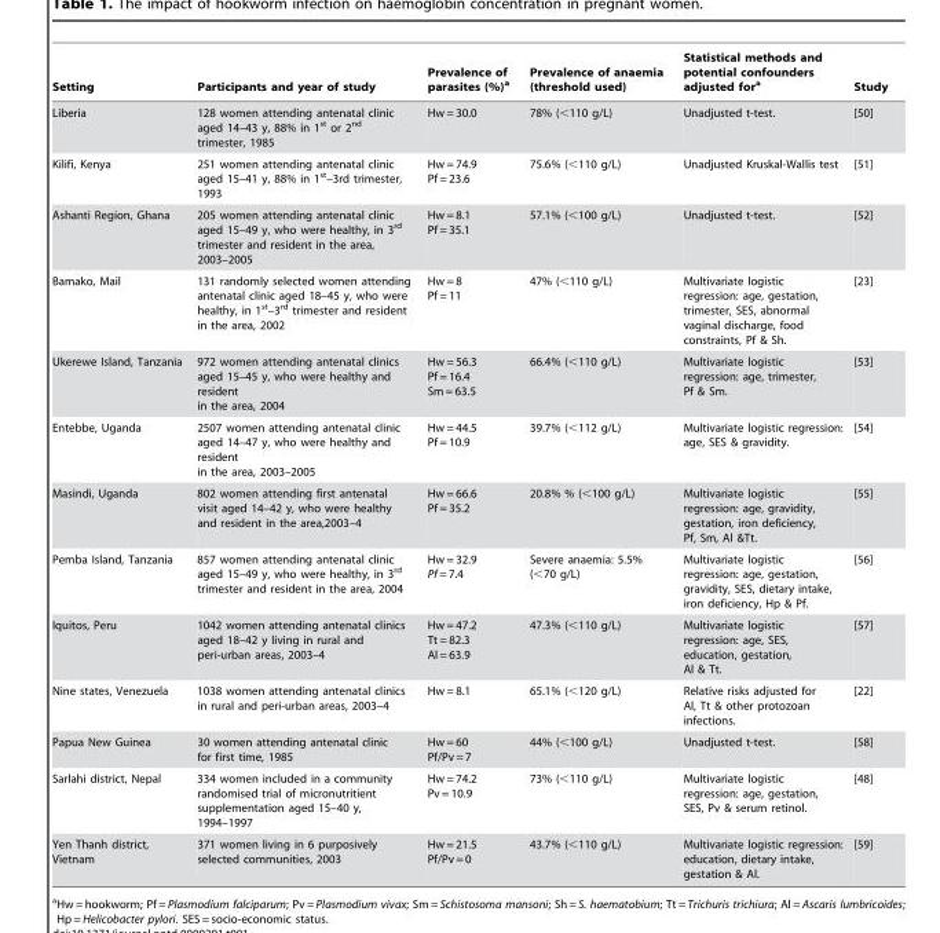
<table><thead><tr><td>Setting</td><td>Participants and year of study</td><td>Prevalence of parasites (%)<sup>a</sup></td><td>Prevalence of anaemia (threshold used)</td><td>Statistical methods and potential confounders adjusted for<sup>a</sup></td><td>Study</td></tr></thead><tbody><tr><td>Liberia</td><td>128 women attending antenatal clinic aged 14–43 y, 88% in 1<sup>st</sup> or 2<sup>nd</sup> trimester, 1985</td><td>Hw = 30.0</td><td>78% (&lt;110 g/L)</td><td>Unadjusted t-test.</td><td>[50]</td></tr><tr><td>Kilifi, Kenya</td><td>251 women attending antenatal clinic aged 15–41 y, 88% in 1<sup>st</sup>–3rd trimester, 1993</td><td>Hw = 74.9 Pf = 23.6</td><td>75.6% (&lt;110 g/L)</td><td>Unadjusted Kruskal-Wallis test</td><td>[51]</td></tr><tr><td>Ashanti Region, Ghana</td><td>205 women attending antenatal clinic aged 15–49 y, who were healthy, in 3<sup>rd</sup> trimester and resident in the area, 2003–2005</td><td>Hw = 8.1 Pf = 35.1</td><td>57.1% (&lt;100 g/L)</td><td>Unadjusted t-test.</td><td>[52]</td></tr><tr><td>Bamako, Mail</td><td>131 randomly selected women attending antenatal clinic aged 18–45 y, who were healthy, in 1<sup>st</sup>–3<sup>rd</sup> trimester and resident in the area, 2002</td><td>Hw = 8 Pf = 11</td><td>47% (&lt;110 g/L)</td><td>Multivariate logistic regression: age, gestation, trimester, SES, abnormal vaginal discharge, food constraints, Pf &amp; Sh.</td><td>[23]</td></tr><tr><td>Ukerewe Island, Tanzania</td><td>972 women attending antenatal clinics aged 15–45 y, who were healthy and resident in the area, 2004</td><td>Hw = 56.3 Pf = 16.4 Sm = 63.5</td><td>66.4% (&lt;110 g/L)</td><td>Multivariate logistic regression: age, trimester, Pf &amp; Sm.</td><td>[53]</td></tr><tr><td>Entebbe, Uganda</td><td>2507 women attending antenatal clinic aged 14–47 y, who were healthy and resident in the area, 2003–2005</td><td>Hw = 44.5 Pf = 10.9</td><td>39.7% (&lt;112 g/L)</td><td>Multivariate logistic regression: age, SES &amp; gravidity.</td><td>[54]</td></tr><tr><td>Masindi, Uganda</td><td>802 women attending first antenatal visit aged 14–42 y, who were healthy and resident in the area,2003–4</td><td>Hw = 66.6 Pf = 35.2</td><td>20.8% % (&lt;100 g/L)</td><td>Multivariate logistic regression: age, gravidity, gestation, iron deficiency, Pf, Sm, Al &amp;Tt.</td><td>[55]</td></tr><tr><td>Pemba Island, Tanzania</td><td>857 women attending antenatal clinic aged 15–49 y, who were healthy, in 3<sup>rd</sup> trimester and resident in the area, 2004</td><td>Hw = 32.9 Pf = 7.4</td><td>Severe anaemia: 5.5% (&lt;70 g/L)</td><td>Multivariate logistic regression: age, gestation, gravidity, SES, dietary intake, iron deficiency, Hp &amp; Pf.</td><td>[56]</td></tr><tr><td>Iquitos, Peru</td><td>1042 women attending antenatal clinics aged 18–42 y living in rural and peri-urban areas, 2003–4</td><td>Hw = 47.2 Tt = 82.3 Al = 63.9</td><td>47.3% (&lt;110 g/L)</td><td>Multivariate logistic regression: age, SES, education, gestation, Al &amp; Tt.</td><td>[57]</td></tr><tr><td>Nine states, Venezuela</td><td>1038 women attending antenatal clinics in rural and peri-urban areas, 2003–4</td><td>Hw = 8.1</td><td>65.1% (&lt;120 g/L)</td><td>Relative risks adjusted for Al, Tt &amp; other protozoan infections.</td><td>[22]</td></tr><tr><td>Papua New Guinea</td><td>30 women attending antenatal clinic for first time, 1985</td><td>Hw = 60 Pf/Pv = 7</td><td>44% (&lt;100 g/L)</td><td>Unadjusted t-test.</td><td>[58]</td></tr><tr><td>Sarlahi district, Nepal</td><td>334 women included in a community randomised trial of micronutritient supplementation aged 15–40 y, 1994–1997</td><td>Hw = 74.2 Pv = 10.9</td><td>73% (&lt;110 g/L)</td><td>Multivariate logistic regression: age, gestation, SES, Pv &amp; serum retinol.</td><td>[48]</td></tr><tr><td>Yen Thanh district, Vietnam</td><td>371 women living in 6 purposively selected communities, 2003</td><td>Hw = 21.5 Pf/Pv = 0</td><td>43.7% (&lt;110 g/L)</td><td>Multivariate logistic regression: education, dietary intake, gestation &amp; Al.</td><td>[59]</td></tr></tbody></table>